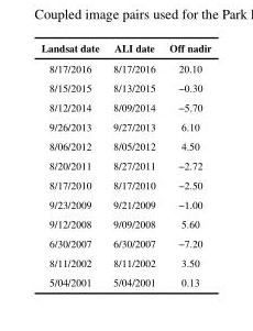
<table><thead><tr><td>Landsat date</td><td>ALI date</td><td>Off nadir</td></tr></thead><tbody><tr><td>8/17/2016</td><td>8/17/2016</td><td>20.10</td></tr><tr><td>8/15/2015</td><td>8/13/2015</td><td>−0.30</td></tr><tr><td>8/12/2014</td><td>8/09/2014</td><td>−5.70</td></tr><tr><td>9/26/2013</td><td>9/27/2013</td><td>6.10</td></tr><tr><td>8/06/2012</td><td>8/05/2012</td><td>4.50</td></tr><tr><td>8/20/2011</td><td>8/27/2011</td><td>−2.72</td></tr><tr><td>8/17/2010</td><td>8/17/2010</td><td>−2.50</td></tr><tr><td>9/23/2009</td><td>9/21/2009</td><td>−1.00</td></tr><tr><td>9/12/2008</td><td>9/09/2008</td><td>5.60</td></tr><tr><td>6/30/2007</td><td>6/30/2007</td><td>−7.20</td></tr><tr><td>8/11/2002</td><td>8/11/2002</td><td>3.50</td></tr><tr><td>5/04/2001</td><td>5/04/2001</td><td>0.13</td></tr></tbody></table>